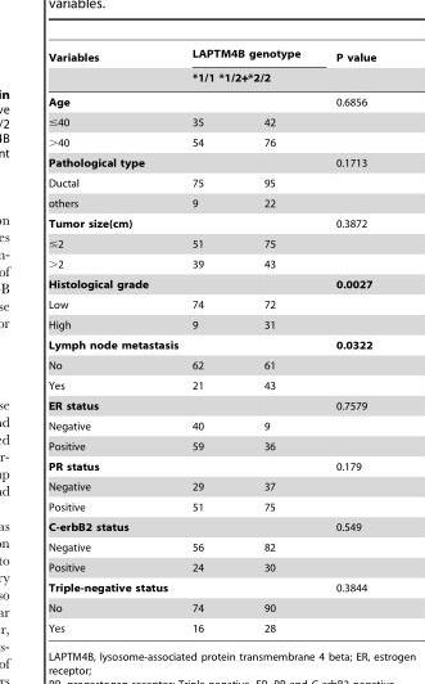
<table><thead><tr><td rowspan="3">Variables Age</td><td rowspan="2" colspan="2">LAPTM4B genotype *1/1 *1/2+*2/2</td><td rowspan="3">P value 0.6856</td></tr><tr></tr><tr><td></td><td></td></tr></thead><tbody><tr><td>≤40</td><td>35</td><td>42</td><td></td></tr><tr><td>&gt;40</td><td>54</td><td>76</td><td></td></tr><tr><td>Pathological type</td><td></td><td></td><td>0.1713</td></tr><tr><td>Ductal</td><td>75</td><td>95</td><td></td></tr><tr><td>others</td><td>9</td><td>22</td><td></td></tr><tr><td>Tumor size(cm)</td><td></td><td></td><td>0.3872</td></tr><tr><td>≤2</td><td>51</td><td>75</td><td></td></tr><tr><td>&gt;2</td><td>39</td><td>43</td><td></td></tr><tr><td>Histological grade</td><td></td><td></td><td>0.0027</td></tr><tr><td>Low</td><td>74</td><td>72</td><td></td></tr><tr><td>High</td><td>9</td><td>31</td><td></td></tr><tr><td>Lymph node metastasis</td><td></td><td></td><td>0.0322</td></tr><tr><td>No</td><td>62</td><td>61</td><td></td></tr><tr><td>Yes</td><td>21</td><td>43</td><td></td></tr><tr><td>ER status</td><td></td><td></td><td>0.7579</td></tr><tr><td>Negative</td><td>40</td><td>9</td><td></td></tr><tr><td>Positive</td><td>59</td><td>36</td><td></td></tr><tr><td>PR status</td><td></td><td></td><td>0.179</td></tr><tr><td>Negative</td><td>29</td><td>37</td><td></td></tr><tr><td>Positive</td><td>51</td><td>75</td><td></td></tr><tr><td>C-erbB2 status</td><td></td><td></td><td>0.549</td></tr><tr><td>Negative</td><td>56</td><td>82</td><td></td></tr><tr><td>Positive</td><td>24</td><td>30</td><td></td></tr><tr><td>Triple-negative status</td><td></td><td></td><td>0.3844</td></tr><tr><td>No</td><td>74</td><td>90</td><td></td></tr><tr><td>Yes</td><td>16</td><td>28</td><td></td></tr></tbody></table>